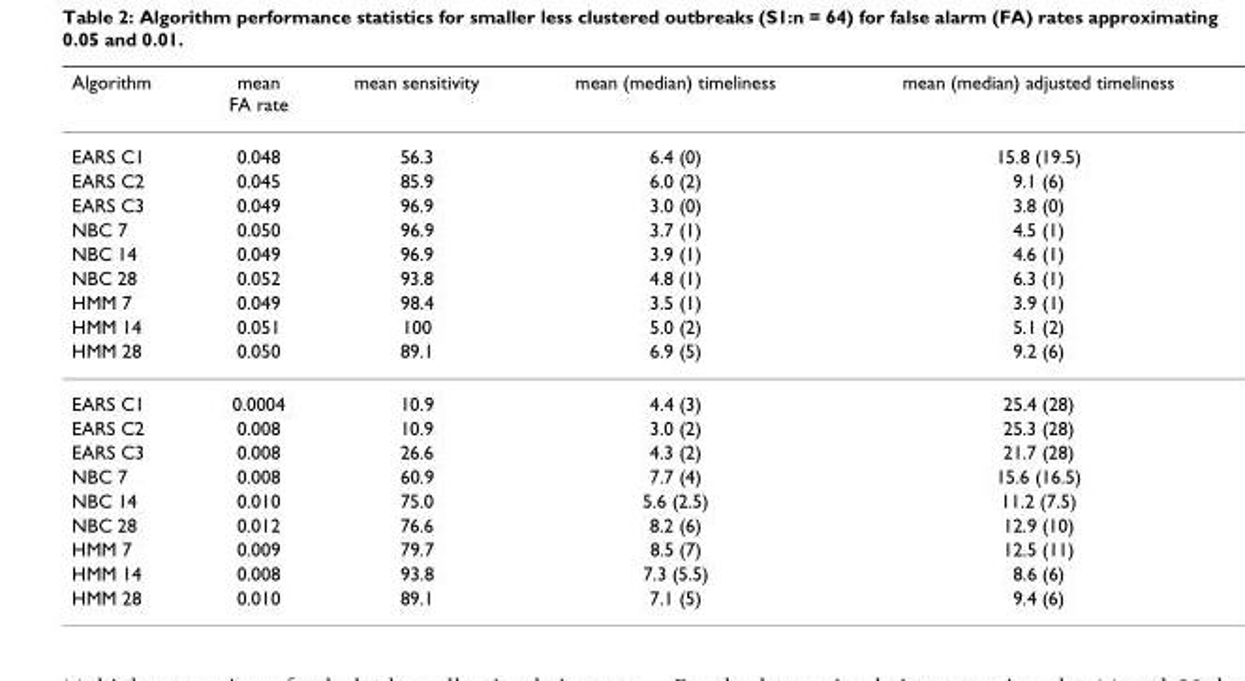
<table><thead><tr><td>Algorithm</td><td>mean FA rate</td><td>mean sensitivity</td><td>mean (median) timeliness</td><td>mean (median) adjusted timeliness</td></tr></thead><tbody><tr><td>EARS C1</td><td>0.048</td><td>56.3</td><td>6.4 (0)</td><td>15.8 (19.5)</td></tr><tr><td>EARS C2</td><td>0.045</td><td>85.9</td><td>6.0 (2)</td><td>9.1 (6)</td></tr><tr><td>EARS C3</td><td>0.049</td><td>96.9</td><td>3.0 (0)</td><td>3.8 (0)</td></tr><tr><td>NBC 7</td><td>0.050</td><td>96.9</td><td>3.7 (1)</td><td>4.5 (1)</td></tr><tr><td>NBC 14</td><td>0.049</td><td>96.9</td><td>3.9 (1)</td><td>4.6 (1)</td></tr><tr><td>NBC 28</td><td>0.052</td><td>93.8</td><td>4.8 (1)</td><td>6.3 (1)</td></tr><tr><td>HMM 7</td><td>0.049</td><td>98.4</td><td>3.5 (1)</td><td>3.9 (1)</td></tr><tr><td>HMM 14</td><td>0.051</td><td>100</td><td>5.0 (2)</td><td>5.1 (2)</td></tr><tr><td>HMM 28</td><td>0.050</td><td>89.1</td><td>6.9 (5)</td><td>9.2 (6)</td></tr><tr><td>EARS C1</td><td>0.0004</td><td>10.9</td><td>4.4 (3)</td><td>25.4 (28)</td></tr><tr><td>EARS C2</td><td>0.008</td><td>10.9</td><td>3.0 (2)</td><td>25.3 (28)</td></tr><tr><td>EARS C3</td><td>0.008</td><td>26.6</td><td>4.3 (2)</td><td>21.7 (28)</td></tr><tr><td>NBC 7</td><td>0.008</td><td>60.9</td><td>7.7 (4)</td><td>15.6 (16.5)</td></tr><tr><td>NBC 14</td><td>0.010</td><td>75.0</td><td>5.6 (2.5)</td><td>11.2 (7.5)</td></tr><tr><td>NBC 28</td><td>0.012</td><td>76.6</td><td>8.2 (6)</td><td>12.9 (10)</td></tr><tr><td>HMM 7</td><td>0.009</td><td>79.7</td><td>8.5 (7)</td><td>12.5 (11)</td></tr><tr><td>HMM 14</td><td>0.008</td><td>93.8</td><td>7.3 (5.5)</td><td>8.6 (6)</td></tr><tr><td>HMM 28</td><td>0.010</td><td>89.1</td><td>7.1 (5)</td><td>9.4 (6)</td></tr></tbody></table>